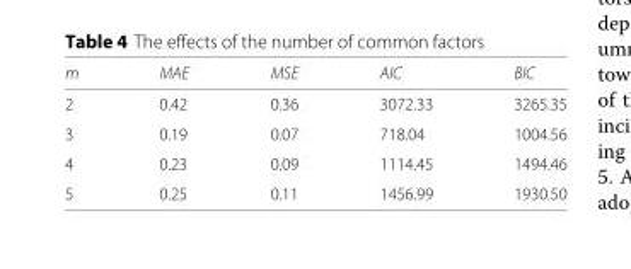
<table><thead><tr><td>m</td><td>MAE</td><td>MSE</td><td>AIC</td><td>BIC</td></tr></thead><tbody><tr><td>2</td><td>0.42</td><td>0.36</td><td>3072.33</td><td>3265.35</td></tr><tr><td>3</td><td>0.19</td><td>0.07</td><td>718.04</td><td>1004.56</td></tr><tr><td>4</td><td>0.23</td><td>0.09</td><td>1114.45</td><td>1494.46</td></tr><tr><td>5</td><td>0.25</td><td>0.11</td><td>1456.99</td><td>1930.50</td></tr></tbody></table>